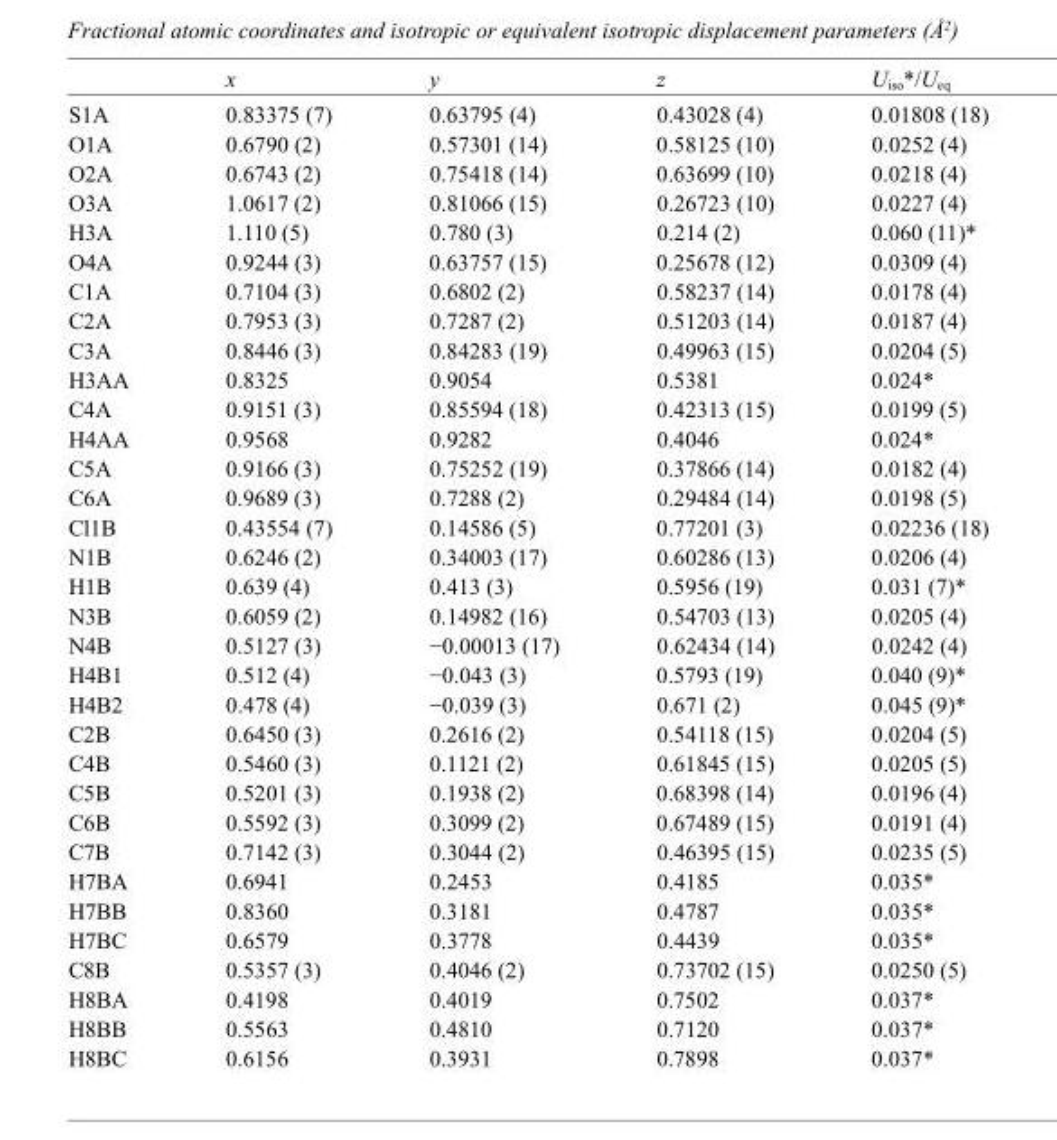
<table><thead><tr><td></td><td>x</td><td>y</td><td>z</td><td>U<sub>iso</sub>*/U<sub>eq</sub></td></tr></thead><tbody><tr><td>S1A</td><td>0.83375 (7)</td><td>0.63795 (4)</td><td>0.43028 (4)</td><td>0.01808 (18)</td></tr><tr><td>O1A</td><td>0.6790 (2)</td><td>0.57301 (14)</td><td>0.58125 (10)</td><td>0.0252 (4)</td></tr><tr><td>O2A</td><td>0.6743 (2)</td><td>0.75418 (14)</td><td>0.63699 (10)</td><td>0.0218 (4)</td></tr><tr><td>O3A</td><td>1.0617 (2)</td><td>0.81066 (15)</td><td>0.26723 (10)</td><td>0.0227 (4)</td></tr><tr><td>H3A</td><td>1.110 (5)</td><td>0.780 (3)</td><td>0.214 (2)</td><td>0.060 (11)*</td></tr><tr><td>O4A</td><td>0.9244 (3)</td><td>0.63757 (15)</td><td>0.25678 (12)</td><td>0.0309 (4)</td></tr><tr><td>C1A</td><td>0.7104 (3)</td><td>0.6802 (2)</td><td>0.58237 (14)</td><td>0.0178 (4)</td></tr><tr><td>C2A</td><td>0.7953 (3)</td><td>0.7287 (2)</td><td>0.51203 (14)</td><td>0.0187 (4)</td></tr><tr><td>C3A</td><td>0.8446 (3)</td><td>0.84283 (19)</td><td>0.49963 (15)</td><td>0.0204 (5)</td></tr><tr><td>H3AA</td><td>0.8325</td><td>0.9054</td><td>0.5381</td><td>0.024*</td></tr><tr><td>C4A</td><td>0.9151 (3)</td><td>0.85594 (18)</td><td>0.42313 (15)</td><td>0.0199 (5)</td></tr><tr><td>H4AA</td><td>0.9568</td><td>0.9282</td><td>0.4046</td><td>0.024*</td></tr><tr><td>C5A</td><td>0.9166 (3)</td><td>0.75252 (19)</td><td>0.37866 (14)</td><td>0.0182 (4)</td></tr><tr><td>C6A</td><td>0.9689 (3)</td><td>0.7288 (2)</td><td>0.29484 (14)</td><td>0.0198 (5)</td></tr><tr><td>Cl1B</td><td>0.43554 (7)</td><td>0.14586 (5)</td><td>0.77201 (3)</td><td>0.02236 (18)</td></tr><tr><td>N1B</td><td>0.6246 (2)</td><td>0.34003 (17)</td><td>0.60286 (13)</td><td>0.0206 (4)</td></tr><tr><td>H1B</td><td>0.639 (4)</td><td>0.413 (3)</td><td>0.5956 (19)</td><td>0.031 (7)*</td></tr><tr><td>N3B</td><td>0.6059 (2)</td><td>0.14982 (16)</td><td>0.54703 (13)</td><td>0.0205 (4)</td></tr><tr><td>N4B</td><td>0.5127 (3)</td><td>−0.00013 (17)</td><td>0.62434 (14)</td><td>0.0242 (4)</td></tr><tr><td>H4B1</td><td>0.512 (4)</td><td>−0.043 (3)</td><td>0.5793 (19)</td><td>0.040 (9)*</td></tr><tr><td>H4B2</td><td>0.478 (4)</td><td>−0.039 (3)</td><td>0.671 (2)</td><td>0.045 (9)*</td></tr><tr><td>C2B</td><td>0.6450 (3)</td><td>0.2616 (2)</td><td>0.54118 (15)</td><td>0.0204 (5)</td></tr><tr><td>C4B</td><td>0.5460 (3)</td><td>0.1121 (2)</td><td>0.61845 (15)</td><td>0.0205 (5)</td></tr><tr><td>C5B</td><td>0.5201 (3)</td><td>0.1938 (2)</td><td>0.68398 (14)</td><td>0.0196 (4)</td></tr><tr><td>C6B</td><td>0.5592 (3)</td><td>0.3099 (2)</td><td>0.67489 (15)</td><td>0.0191 (4)</td></tr><tr><td>C7B</td><td>0.7142 (3)</td><td>0.3044 (2)</td><td>0.46395 (15)</td><td>0.0235 (5)</td></tr><tr><td>H7BA</td><td>0.6941</td><td>0.2453</td><td>0.4185</td><td>0.035*</td></tr><tr><td>H7BB</td><td>0.8360</td><td>0.3181</td><td>0.4787</td><td>0.035*</td></tr><tr><td>H7BC</td><td>0.6579</td><td>0.3778</td><td>0.4439</td><td>0.035*</td></tr><tr><td>C8B</td><td>0.5357 (3)</td><td>0.4046 (2)</td><td>0.73702 (15)</td><td>0.0250 (5)</td></tr><tr><td>H8BA</td><td>0.4198</td><td>0.4019</td><td>0.7502</td><td>0.037*</td></tr><tr><td>H8BB</td><td>0.5563</td><td>0.4810</td><td>0.7120</td><td>0.037*</td></tr><tr><td>H8BC</td><td>0.6156</td><td>0.3931</td><td>0.7898</td><td>0.037*</td></tr></tbody></table>